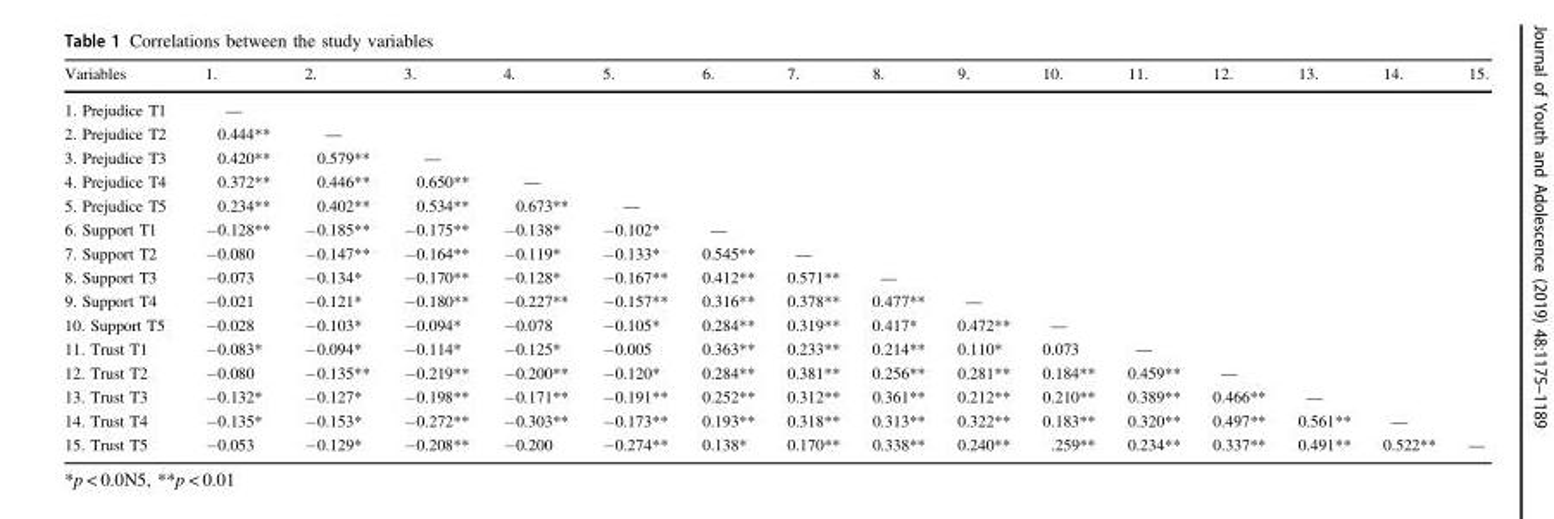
<table><thead><tr><td>Variables</td><td>1.</td><td>2.</td><td>3.</td><td>4.</td><td>5.</td><td>6.</td><td>7.</td><td>8.</td><td>9.</td><td>10.</td><td>11.</td><td>12.</td><td>13.</td><td>14.</td><td>15.</td></tr></thead><tbody><tr><td>1. Prejudice T1</td><td>—</td><td></td><td></td><td></td><td></td><td></td><td></td><td></td><td></td><td></td><td></td><td></td><td></td><td></td><td></td></tr><tr><td>2. Prejudice T2</td><td>0.444**</td><td>—</td><td></td><td></td><td></td><td></td><td></td><td></td><td></td><td></td><td></td><td></td><td></td><td></td><td></td></tr><tr><td>3. Prejudice T3</td><td>0.420**</td><td>0.579**</td><td>—</td><td></td><td></td><td></td><td></td><td></td><td></td><td></td><td></td><td></td><td></td><td></td><td></td></tr><tr><td>4. Prejudice T4</td><td>0.372**</td><td>0.446**</td><td>0.650**</td><td>—</td><td></td><td></td><td></td><td></td><td></td><td></td><td></td><td></td><td></td><td></td><td></td></tr><tr><td>5. Prejudice T5</td><td>0.234**</td><td>0.402**</td><td>0.534**</td><td>0.673**</td><td>—</td><td></td><td></td><td></td><td></td><td></td><td></td><td></td><td></td><td></td><td></td></tr><tr><td>6. Support T1</td><td>−0.128**</td><td>−0.185**</td><td>−0.175**</td><td>−0.138*</td><td>−0.102*</td><td>—</td><td></td><td></td><td></td><td></td><td></td><td></td><td></td><td></td><td></td></tr><tr><td>7. Support T2</td><td>−0.080</td><td>−0.147**</td><td>−0.164**</td><td>−0.119*</td><td>−0.133*</td><td>0.545**</td><td>—</td><td></td><td></td><td></td><td></td><td></td><td></td><td></td><td></td></tr><tr><td>8. Support T3</td><td>−0.073</td><td>−0.134*</td><td>−0.170**</td><td>−0.128*</td><td>−0.167**</td><td>0.412**</td><td>0.571**</td><td>—</td><td></td><td></td><td></td><td></td><td></td><td></td><td></td></tr><tr><td>9. Support T4</td><td>−0.021</td><td>−0.121*</td><td>−0.180**</td><td>−0.227**</td><td>−0.157**</td><td>0.316**</td><td>0.378**</td><td>0.477**</td><td>—</td><td></td><td></td><td></td><td></td><td></td><td></td></tr><tr><td>10. Support T5</td><td>−0.028</td><td>−0.103*</td><td>−0.094*</td><td>−0.078</td><td>−0.105*</td><td>0.284**</td><td>0.319**</td><td>0.417*</td><td>0.472**</td><td>—</td><td></td><td></td><td></td><td></td><td></td></tr><tr><td>11. Trust T1</td><td>−0.083*</td><td>−0.094*</td><td>−0.114*</td><td>−0.125*</td><td>−0.005</td><td>0.363**</td><td>0.233**</td><td>0.214**</td><td>0.110*</td><td>0.073</td><td>—</td><td></td><td></td><td></td><td></td></tr><tr><td>12. Trust T2</td><td>−0.080</td><td>−0.135**</td><td>−0.219**</td><td>−0.200**</td><td>−0.120*</td><td>0.284**</td><td>0.381**</td><td>0.256**</td><td>0.281**</td><td>0.184**</td><td>0.459**</td><td>—</td><td></td><td></td><td></td></tr><tr><td>13. Trust T3</td><td>−0.132*</td><td>−0.127*</td><td>−0.198**</td><td>−0.171**</td><td>−0.191**</td><td>0.252**</td><td>0.312**</td><td>0.361**</td><td>0.212**</td><td>0.210**</td><td>0.389**</td><td>0.466**</td><td>—</td><td></td><td></td></tr><tr><td>14. Trust T4</td><td>−0.135*</td><td>−0.153*</td><td>−0.272**</td><td>−0.303**</td><td>−0.173**</td><td>0.193**</td><td>0.318**</td><td>0.313**</td><td>0.322**</td><td>0.183**</td><td>0.320**</td><td>0.497**</td><td>0.561**</td><td>—</td><td></td></tr><tr><td>15. Trust T5</td><td>−0.053</td><td>−0.129*</td><td>−0.208**</td><td>−0.200</td><td>−0.274**</td><td>0.138*</td><td>0.170**</td><td>0.338**</td><td>0.240**</td><td>.259**</td><td>0.234**</td><td>0.337**</td><td>0.491**</td><td>0.522**</td><td>—</td></tr></tbody></table>